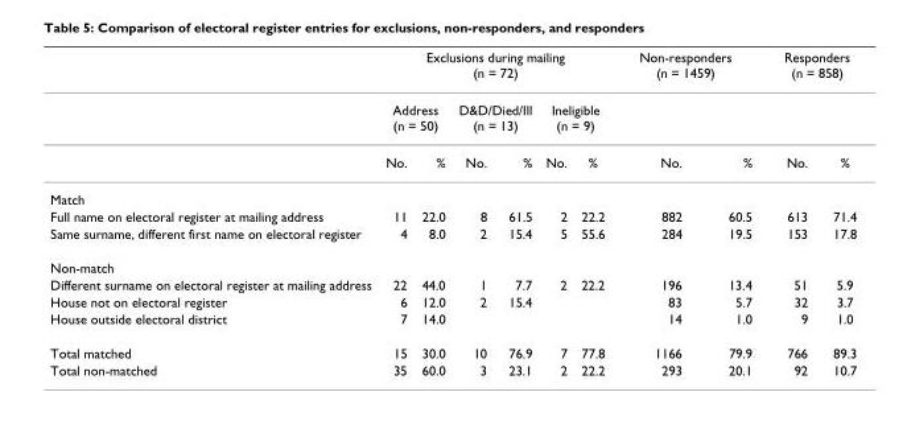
<table><thead><tr><td rowspan="3"></td><td colspan="6">Exclusions during mailing (n = 72)</td><td colspan="2">Non-responders (n = 1459)</td><td colspan="2">Responders (n = 858)</td></tr><tr><td colspan="2">Address (n = 50)</td><td colspan="2">D&amp;D/Died/Ill (n = 13)</td><td colspan="2">Ineligible (n = 9)</td><td rowspan="2">No.</td><td rowspan="2">%</td><td rowspan="2">No.</td><td rowspan="2">%</td></tr><tr><td>No.</td><td>%</td><td>No.</td><td>%</td><td>No.</td><td>%</td></tr></thead><tbody><tr><td colspan="11">Match</td></tr><tr><td>Full name on electoral register at mailing address</td><td>11</td><td>22.0</td><td>8</td><td>61.5</td><td>2</td><td>22.2</td><td>882</td><td>60.5</td><td>613</td><td>71.4</td></tr><tr><td>Same surname, different first name on electoral register</td><td>4</td><td>8.0</td><td>2</td><td>15.4</td><td>5</td><td>55.6</td><td>284</td><td>19.5</td><td>153</td><td>17.8</td></tr><tr><td colspan="11">Non-match</td></tr><tr><td>Different surname on electoral register at mailing address</td><td>22</td><td>44.0</td><td>1</td><td>7.7</td><td>2</td><td>22.2</td><td>196</td><td>13.4</td><td>51</td><td>5.9</td></tr><tr><td>House not on electoral register</td><td>6</td><td>12.0</td><td>2</td><td>15.4</td><td></td><td></td><td>83</td><td>5.7</td><td>32</td><td>3.7</td></tr><tr><td>House outside electoral district</td><td>7</td><td>14.0</td><td></td><td></td><td></td><td></td><td>14</td><td>1.0</td><td>9</td><td>1.0</td></tr><tr><td>Total matched</td><td>15</td><td>30.0</td><td>10</td><td>76.9</td><td>7</td><td>77.8</td><td>1166</td><td>79.9</td><td>766</td><td>89.3</td></tr><tr><td>Total non-matched</td><td>35</td><td>60.0</td><td>3</td><td>23.1</td><td>2</td><td>22.2</td><td>293</td><td>20.1</td><td>92</td><td>10.7</td></tr></tbody></table>